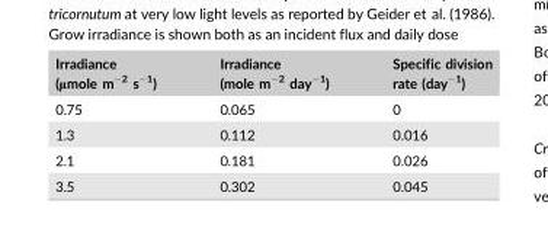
<table><thead><tr><td>Irradiance (μmole m<sup>−2</sup> s<sup>−1</sup>)</td><td>Irradiance (mole m<sup>−2</sup> day<sup>−1</sup>)</td><td>Specific division rate (day<sup>−1</sup>)</td></tr></thead><tbody><tr><td>0.75</td><td>0.065</td><td>0</td></tr><tr><td>1.3</td><td>0.112</td><td>0.016</td></tr><tr><td>2.1</td><td>0.181</td><td>0.026</td></tr><tr><td>3.5</td><td>0.302</td><td>0.045</td></tr></tbody></table>